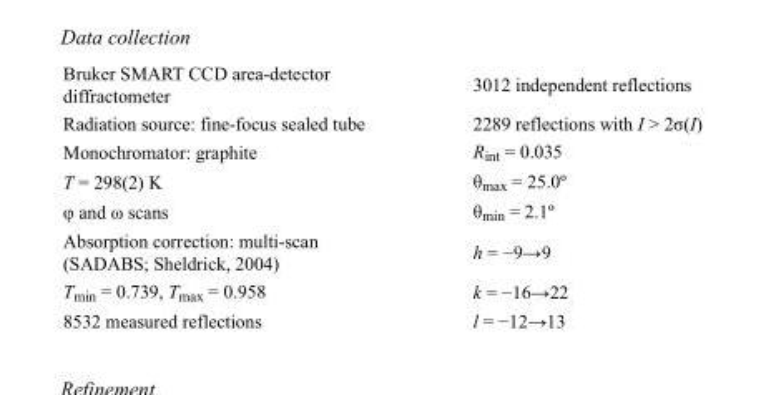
<table><tbody><tr><td>Bruker SMART CCD area-detector diffractometer</td><td>3012 independent reflections</td></tr><tr><td>Radiation source: fine-focus sealed tube</td><td>2289 reflections with I &gt; 2σ(I)</td></tr><tr><td>Monochromator: graphite</td><td>R<sub>int</sub> = 0.035</td></tr><tr><td>T = 298(2) K</td><td>θ<sub>max</sub> = 25.0º</td></tr><tr><td>φ and ω scans</td><td>θ<sub>min</sub> = 2.1º</td></tr><tr><td>Absorption correction: multi-scan (SADABS; Sheldrick, 2004)</td><td>h = −9→9</td></tr><tr><td>T<sub>min</sub> = 0.739, T<sub>max</sub> = 0.958</td><td>k = −16→22</td></tr><tr><td>8532 measured reflections</td><td>l = −12→13</td></tr></tbody></table>